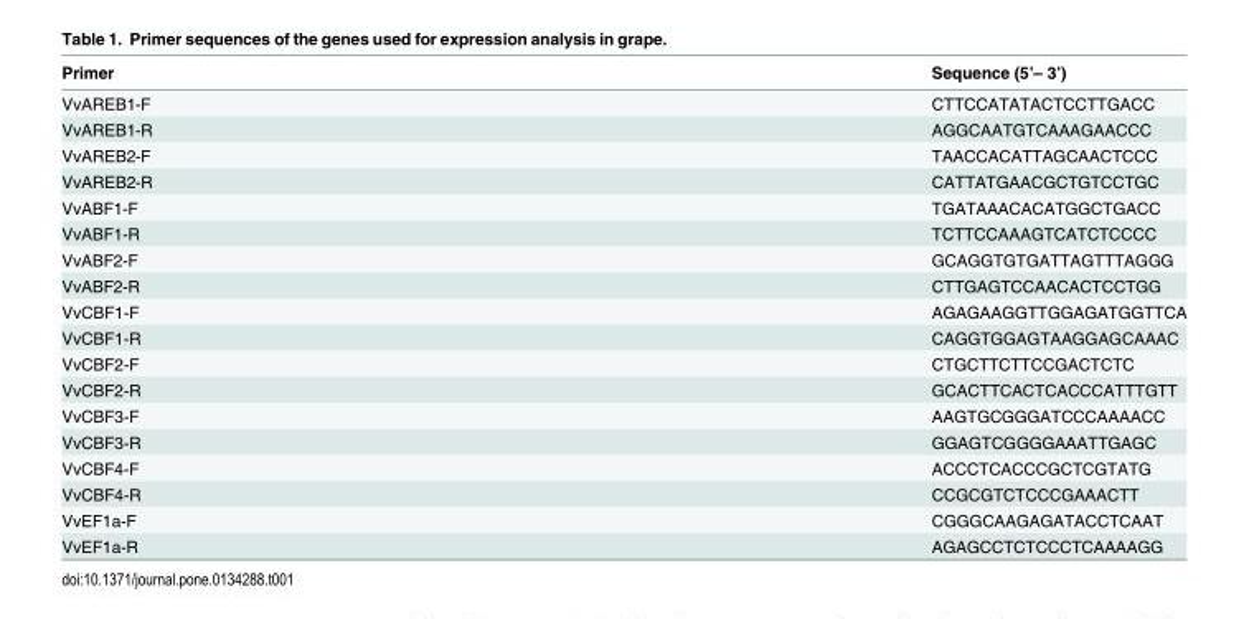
<table><thead><tr><td>Primer</td><td>Sequence (5’– 3’)</td></tr></thead><tbody><tr><td>VvAREB1-F</td><td>CTTCCATATACTCCTTGACC</td></tr><tr><td>VvAREB1-R</td><td>AGGCAATGTCAAAGAACCC</td></tr><tr><td>VvAREB2-F</td><td>TAACCACATTAGCAACTCCC</td></tr><tr><td>VvAREB2-R</td><td>CATTATGAACGCTGTCCTGC</td></tr><tr><td>VvABF1-F</td><td>TGATAAACACATGGCTGACC</td></tr><tr><td>VvABF1-R</td><td>TCTTCCAAAGTCATCTCCCC</td></tr><tr><td>VvABF2-F</td><td>GCAGGTGTGATTAGTTTAGGG</td></tr><tr><td>VvABF2-R</td><td>CTTGAGTCCAACACTCCTGG</td></tr><tr><td>VvCBF1-F</td><td>AGAGAAGGTTGGAGATGGTTCA</td></tr><tr><td>VvCBF1-R</td><td>CAGGTGGAGTAAGGAGCAAAC</td></tr><tr><td>VvCBF2-F</td><td>CTGCTTCTTCCGACTCTC</td></tr><tr><td>VvCBF2-R</td><td>GCACTTCACTCACCCATTTGTT</td></tr><tr><td>VvCBF3-F</td><td>AAGTGCGGGATCCCAAAACC</td></tr><tr><td>VvCBF3-R</td><td>GGAGTCGGGGAAATTGAGC</td></tr><tr><td>VvCBF4-F</td><td>ACCCTCACCCGCTCGTATG</td></tr><tr><td>VvCBF4-R</td><td>CCGCGTCTCCCGAAACTT</td></tr><tr><td>VvEF1a-F</td><td>CGGGCAAGAGATACCTCAAT</td></tr><tr><td>VvEF1a-R</td><td>AGAGCCTCTCCCTCAAAAGG</td></tr></tbody></table>